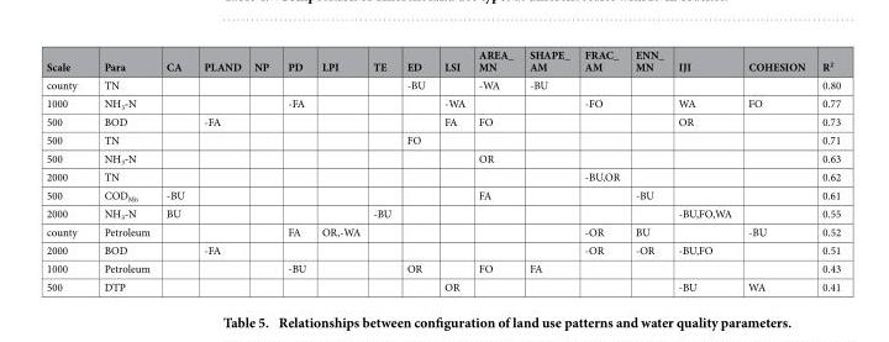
<table><thead><tr><td>Scale</td><td>Para</td><td>CA</td><td>PLAND</td><td>NP</td><td>PD</td><td>LPI</td><td>TE</td><td>ED</td><td>LSI</td><td>AREA_ MN</td><td>SHAPE_ AM</td><td>FRAC_ AM</td><td>ENN_ MN</td><td>IJI</td><td>COHESION</td><td>R<sup>2</sup></td></tr></thead><tbody><tr><td>county</td><td>TN</td><td></td><td></td><td></td><td></td><td></td><td></td><td>-BU</td><td></td><td>-WA</td><td>-BU</td><td></td><td></td><td></td><td></td><td>0.80</td></tr><tr><td>1000</td><td>NH<sub>3</sub>-N</td><td></td><td></td><td></td><td>-FA</td><td></td><td></td><td></td><td>-WA</td><td></td><td></td><td>-FO</td><td></td><td>WA</td><td>FO</td><td>0.77</td></tr><tr><td>500</td><td>BOD</td><td></td><td>-FA</td><td></td><td></td><td></td><td></td><td></td><td>FA</td><td>FO</td><td></td><td></td><td></td><td>OR</td><td></td><td>0.73</td></tr><tr><td>500</td><td>TN</td><td></td><td></td><td></td><td></td><td></td><td></td><td>FO</td><td></td><td></td><td></td><td></td><td></td><td></td><td></td><td>0.71</td></tr><tr><td>500</td><td>NH<sub>3</sub>-N</td><td></td><td></td><td></td><td></td><td></td><td></td><td></td><td></td><td>OR</td><td></td><td></td><td></td><td></td><td></td><td>0.63</td></tr><tr><td>2000</td><td>TN</td><td></td><td></td><td></td><td></td><td></td><td></td><td></td><td></td><td></td><td></td><td>-BU,OR</td><td></td><td></td><td></td><td>0.62</td></tr><tr><td>500</td><td>COD<sub>Mn</sub></td><td>-BU</td><td></td><td></td><td></td><td></td><td></td><td></td><td></td><td>FA</td><td></td><td></td><td>-BU</td><td></td><td></td><td>0.61</td></tr><tr><td>2000</td><td>NH<sub>3</sub>-N</td><td>BU</td><td></td><td></td><td></td><td></td><td>-BU</td><td></td><td></td><td></td><td></td><td></td><td></td><td>-BU,FO,WA</td><td></td><td>0.55</td></tr><tr><td>county</td><td>Petroleum</td><td></td><td></td><td></td><td>FA</td><td>OR,-WA</td><td></td><td></td><td></td><td></td><td></td><td>-OR</td><td>BU</td><td></td><td>-BU</td><td>0.52</td></tr><tr><td>2000</td><td>BOD</td><td></td><td>-FA</td><td></td><td></td><td></td><td></td><td></td><td></td><td></td><td></td><td>-OR</td><td>-OR</td><td>-BU,FO</td><td></td><td>0.51</td></tr><tr><td>1000</td><td>Petroleum</td><td></td><td></td><td></td><td>-BU</td><td></td><td></td><td>OR</td><td></td><td>FO</td><td>FA</td><td></td><td></td><td></td><td></td><td>0.43</td></tr><tr><td>500</td><td>DTP</td><td></td><td></td><td></td><td></td><td></td><td></td><td></td><td>OR</td><td></td><td></td><td></td><td></td><td>-BU</td><td>WA</td><td>0.41</td></tr></tbody></table>